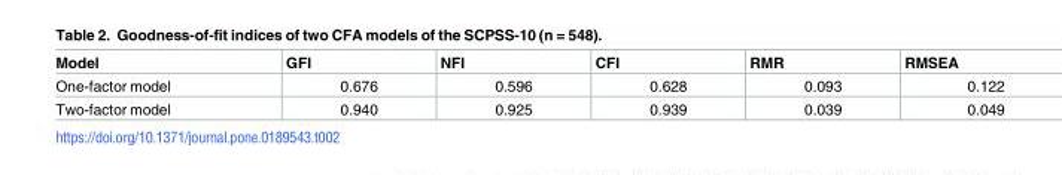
<table><thead><tr><td>Model</td><td>GFI</td><td>NFI</td><td>CFI</td><td>RMR</td><td>RMSEA</td></tr></thead><tbody><tr><td>One-factor model</td><td>0.676</td><td>0.596</td><td>0.628</td><td>0.093</td><td>0.122</td></tr><tr><td>Two-factor model</td><td>0.940</td><td>0.925</td><td>0.939</td><td>0.039</td><td>0.049</td></tr></tbody></table>